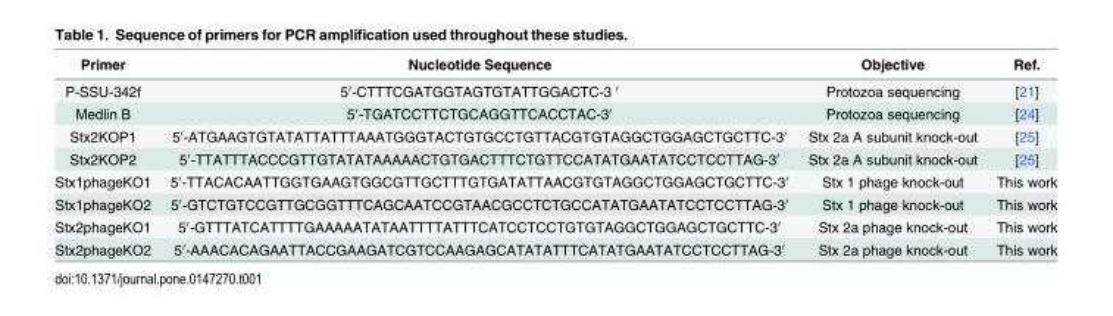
<table><thead><tr><td>Primer</td><td>Nucleotide Sequence</td><td>Objective</td><td>Ref.</td></tr></thead><tbody><tr><td>P-SSU-342f</td><td>5′-CTTTCGATGGTAGTGTATTGGACTC-3 ′</td><td>Protozoa sequencing</td><td>[21]</td></tr><tr><td>Medlin B</td><td>5′-TGATCCTTCTGCAGGTTCACCTAC-3′</td><td>Protozoa sequencing</td><td>[24]</td></tr><tr><td>Stx2KOP1</td><td>5′-ATGAAGTGTATATTATTTAAATGGGTACTGTGCCTGTTACGTGTAGGCTGGAGCTGCTTC-3′</td><td>Stx 2a A subunit knock-out</td><td>[25]</td></tr><tr><td>Stx2KOP2</td><td>5′-TTATTTACCCGTTGTATATAAAAACTGTGACTTTCTGTTCCATATGAATATCCTCCTTAG-3′</td><td>Stx 2a A subunit knock-out</td><td>[25]</td></tr><tr><td>Stx1phageKO1</td><td>5′-TTACACAATTGGTGAAGTGGCGTTGCTTTGTGATATTAACGTGTAGGCTGGAGCTGCTTC-3′</td><td>Stx 1 phage knock-out</td><td>This work</td></tr><tr><td>Stx1phageKO2</td><td>5′-GTCTGTCCGTTGCGGTTTCAGCAATCCGTAACGCCTCTGCCATATGAATATCCTCCTTAG-3′</td><td>Stx 1 phage knock-out</td><td>This work</td></tr><tr><td>Stx2phageKO1</td><td>5′-GTTTATCATTTTGAAAAATATAATTTTATTTCATCCTCCTGTGTAGGCTGGAGCTGCTTC-3′</td><td>Stx 2a phage knock-out</td><td>This work</td></tr><tr><td>Stx2phageKO2</td><td>5′-AAACACAGAATTACCGAAGATCGTCCAAGAGCATATATTTCATATGAATATCCTCCTTAG-3′</td><td>Stx 2a phage knock-out</td><td>This work</td></tr></tbody></table>